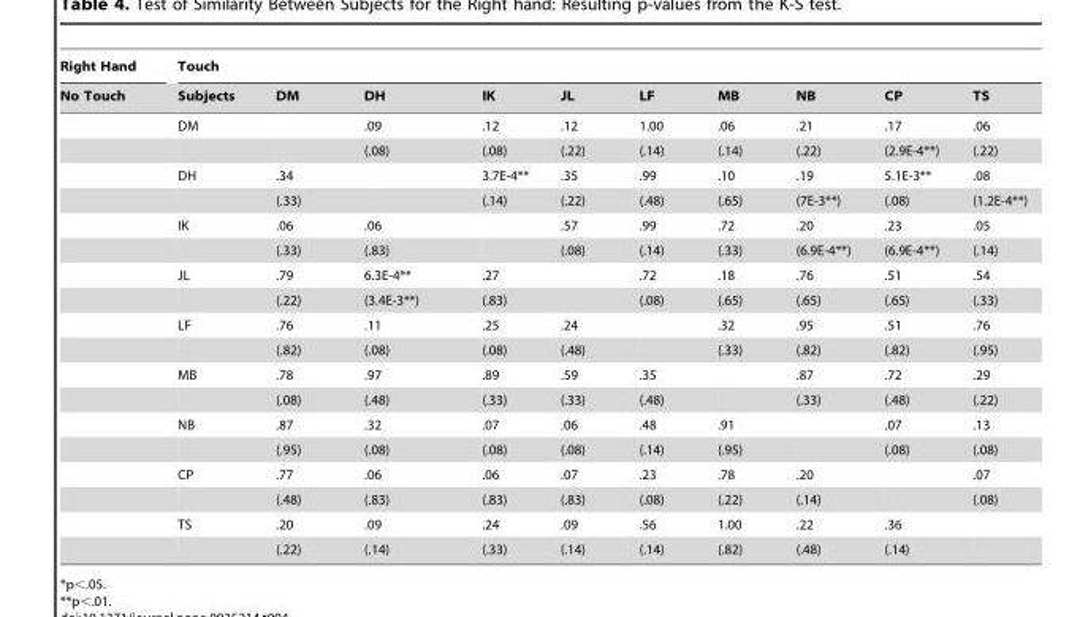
<table><thead><tr><td rowspan="2">Right Hand No Touch</td><td colspan="10">Touch</td></tr><tr><td>Subjects</td><td>DM</td><td>DH</td><td>IK</td><td>JL</td><td>LF</td><td>MB</td><td>NB</td><td>CP</td><td>TS</td></tr></thead><tbody><tr><td></td><td>DM</td><td></td><td>.09</td><td>.12</td><td>.12</td><td>1.00</td><td>.06</td><td>.21</td><td>.17</td><td>.06</td></tr><tr><td></td><td></td><td></td><td>(.08)</td><td>(.08)</td><td>(.22)</td><td>(.14)</td><td>(.14)</td><td>(.22)</td><td>(2.9E-4**)</td><td>(.22)</td></tr><tr><td></td><td>DH</td><td>.34</td><td></td><td>3.7E-4**</td><td>.35</td><td>.99</td><td>.10</td><td>.19</td><td>5.1E-3**</td><td>.08</td></tr><tr><td></td><td></td><td>(.33)</td><td></td><td>(.14)</td><td>(.22)</td><td>(.48)</td><td>(.65)</td><td>(7E-3**)</td><td>(.08)</td><td>(1.2E-4**)</td></tr><tr><td></td><td>IK</td><td>.06</td><td>.06</td><td></td><td>.57</td><td>.99</td><td>.72</td><td>.20</td><td>.23</td><td>.05</td></tr><tr><td></td><td></td><td>(.33)</td><td>(.83)</td><td></td><td>(.08)</td><td>(.14)</td><td>(.33)</td><td>(6.9E-4**)</td><td>(6.9E-4**)</td><td>(.14)</td></tr><tr><td></td><td>JL</td><td>.79</td><td>6.3E-4**</td><td>.27</td><td></td><td>.72</td><td>.18</td><td>.76</td><td>.51</td><td>.54</td></tr><tr><td></td><td></td><td>(.22)</td><td>(3.4E-3**)</td><td>(.83)</td><td></td><td>(.08)</td><td>(.65)</td><td>(.65)</td><td>(.65)</td><td>(.33)</td></tr><tr><td></td><td>LF</td><td>.76</td><td>.11</td><td>.25</td><td>.24</td><td></td><td>.32</td><td>.95</td><td>.51</td><td>.76</td></tr><tr><td></td><td></td><td>(.82)</td><td>(.08)</td><td>(.08)</td><td>(.48)</td><td></td><td>(.33)</td><td>(.82)</td><td>(.82)</td><td>(.95)</td></tr><tr><td></td><td>MB</td><td>.78</td><td>.97</td><td>.89</td><td>.59</td><td>.35</td><td></td><td>.87</td><td>.72</td><td>.29</td></tr><tr><td></td><td></td><td>(.08)</td><td>(.48)</td><td>(.33)</td><td>(.33)</td><td>(.48)</td><td></td><td>(.33)</td><td>(.48)</td><td>(.22)</td></tr><tr><td></td><td>NB</td><td>.87</td><td>.32</td><td>.07</td><td>.06</td><td>.48</td><td>.91</td><td></td><td>.07</td><td>.13</td></tr><tr><td></td><td></td><td>(.95)</td><td>(.08)</td><td>(.08)</td><td>(.08)</td><td>(.14)</td><td>(.95)</td><td></td><td>(.08)</td><td>(.08)</td></tr><tr><td></td><td>CP</td><td>.77</td><td>.06</td><td>.06</td><td>.07</td><td>.23</td><td>.78</td><td>.20</td><td></td><td>.07</td></tr><tr><td></td><td></td><td>(.48)</td><td>(.83)</td><td>(.83)</td><td>(.83)</td><td>(.08)</td><td>(.22)</td><td>(.14)</td><td></td><td>(.08)</td></tr><tr><td></td><td>TS</td><td>.20</td><td>.09</td><td>.24</td><td>.09</td><td>.56</td><td>1.00</td><td>.22</td><td>.36</td><td></td></tr><tr><td></td><td></td><td>(.22)</td><td>(.14)</td><td>(.33)</td><td>(.14)</td><td>(.14)</td><td>(.82)</td><td>(.48)</td><td>(.14)</td><td></td></tr></tbody></table>